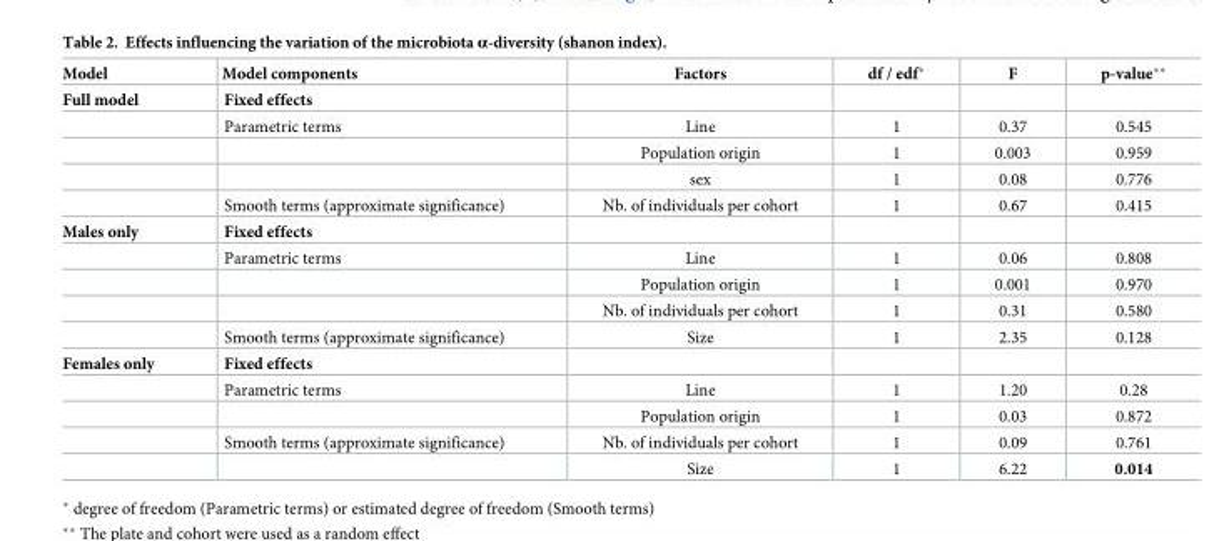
<table><thead><tr><td>Model</td><td>Model components</td><td>Factors</td><td>df / edf*</td><td>F</td><td>p-value**</td></tr></thead><tbody><tr><td rowspan="5">Full model</td><td>Fixed effects</td><td></td><td></td><td></td><td></td></tr><tr><td>Parametric terms</td><td>Line</td><td>1</td><td>0.37</td><td>0.545</td></tr><tr><td></td><td>Population origin</td><td>1</td><td>0.003</td><td>0.959</td></tr><tr><td></td><td>sex</td><td>1</td><td>0.08</td><td>0.776</td></tr><tr><td>Smooth terms (approximate significance)</td><td>Nb. of individuals per cohort</td><td>1</td><td>0.67</td><td>0.415</td></tr><tr><td rowspan="5">Males only</td><td>Fixed effects</td><td></td><td></td><td></td><td></td></tr><tr><td>Parametric terms</td><td>Line</td><td>1</td><td>0.06</td><td>0.808</td></tr><tr><td></td><td>Population origin</td><td>1</td><td>0.001</td><td>0.970</td></tr><tr><td></td><td>Nb. of individuals per cohort</td><td>1</td><td>0.31</td><td>0.580</td></tr><tr><td>Smooth terms (approximate significance)</td><td>Size</td><td>1</td><td>2.35</td><td>0.128</td></tr><tr><td rowspan="5">Females only</td><td>Fixed effects</td><td></td><td></td><td></td><td></td></tr><tr><td>Parametric terms</td><td>Line</td><td>1</td><td>1.20</td><td>0.28</td></tr><tr><td></td><td>Population origin</td><td>1</td><td>0.03</td><td>0.872</td></tr><tr><td>Smooth terms (approximate significance)</td><td>Nb. of individuals per cohort</td><td>1</td><td>0.09</td><td>0.761</td></tr><tr><td></td><td>Size</td><td>1</td><td>6.22</td><td>0.014</td></tr></tbody></table>